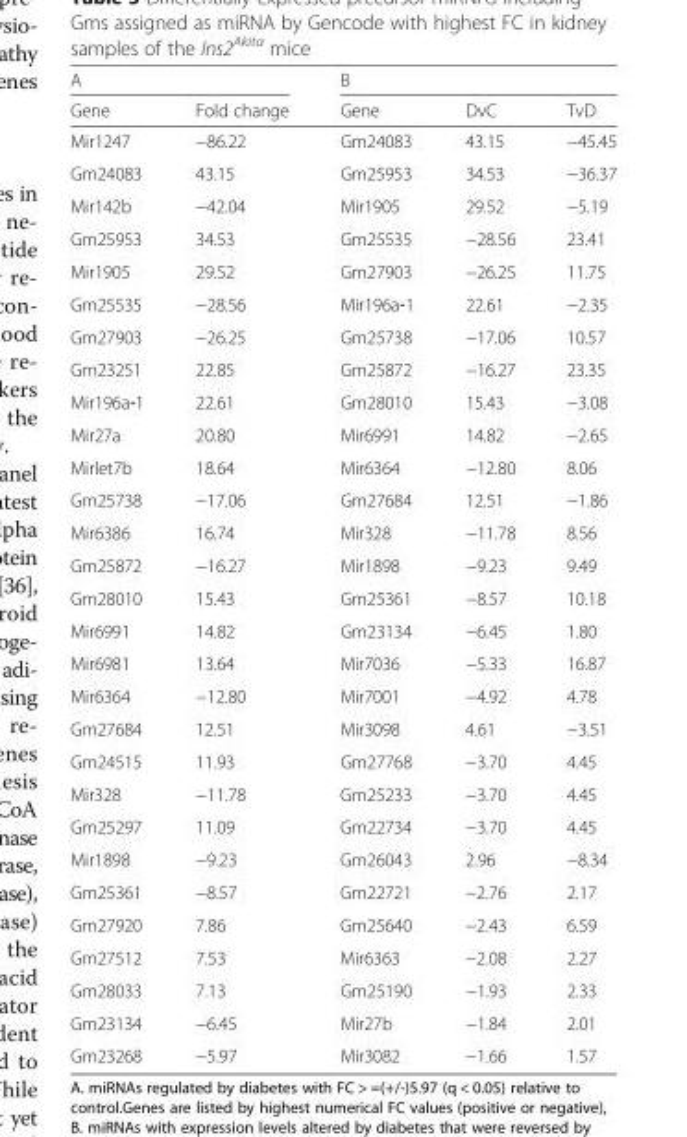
<table><thead><tr><td colspan="2">A</td><td colspan="3">B</td></tr><tr><td>Gene</td><td>Fold change</td><td>Gene</td><td>DvC</td><td>TvD</td></tr></thead><tbody><tr><td>Mir1247</td><td>−86.22</td><td>Gm24083</td><td>43.15</td><td>−45.45</td></tr><tr><td>Gm24083</td><td>43.15</td><td>Gm25953</td><td>34.53</td><td>−36.37</td></tr><tr><td>Mir142b</td><td>−42.04</td><td>Mir1905</td><td>29.52</td><td>−5.19</td></tr><tr><td>Gm25953</td><td>34.53</td><td>Gm25535</td><td>−28.56</td><td>23.41</td></tr><tr><td>Mir1905</td><td>29.52</td><td>Gm27903</td><td>−26.25</td><td>11.75</td></tr><tr><td>Gm25535</td><td>−28.56</td><td>Mir196a‐1</td><td>22.61</td><td>−2.35</td></tr><tr><td>Gm27903</td><td>−26.25</td><td>Gm25738</td><td>−17.06</td><td>10.57</td></tr><tr><td>Gm23251</td><td>22.85</td><td>Gm25872</td><td>−16.27</td><td>23.35</td></tr><tr><td>Mir196a‐1</td><td>22.61</td><td>Gm28010</td><td>15.43</td><td>−3.08</td></tr><tr><td>Mir27a</td><td>20.80</td><td>Mir6991</td><td>14.82</td><td>−2.65</td></tr><tr><td>Mirlet7b</td><td>18.64</td><td>Mir6364</td><td>−12.80</td><td>8.06</td></tr><tr><td>Gm25738</td><td>−17.06</td><td>Gm27684</td><td>12.51</td><td>−1.86</td></tr><tr><td>Mir6386</td><td>16.74</td><td>Mir328</td><td>−11.78</td><td>8.56</td></tr><tr><td>Gm25872</td><td>−16.27</td><td>Mir1898</td><td>−9.23</td><td>9.49</td></tr><tr><td>Gm28010</td><td>15.43</td><td>Gm25361</td><td>−8.57</td><td>10.18</td></tr><tr><td>Mir6991</td><td>14.82</td><td>Gm23134</td><td>−6.45</td><td>1.80</td></tr><tr><td>Mir6981</td><td>13.64</td><td>Mir7036</td><td>−5.33</td><td>16.87</td></tr><tr><td>Mir6364</td><td>−12.80</td><td>Mir7001</td><td>−4.92</td><td>4.78</td></tr><tr><td>Gm27684</td><td>12.51</td><td>Mir3098</td><td>4.61</td><td>−3.51</td></tr><tr><td>Gm24515</td><td>11.93</td><td>Gm27768</td><td>−3.70</td><td>4.45</td></tr><tr><td>Mir328</td><td>−11.78</td><td>Gm25233</td><td>−3.70</td><td>4.45</td></tr><tr><td>Gm25297</td><td>11.09</td><td>Gm22734</td><td>−3.70</td><td>4.45</td></tr><tr><td>Mir1898</td><td>−9.23</td><td>Gm26043</td><td>2.96</td><td>−8.34</td></tr><tr><td>Gm25361</td><td>−8.57</td><td>Gm22721</td><td>−2.76</td><td>2.17</td></tr><tr><td>Gm27920</td><td>7.86</td><td>Gm25640</td><td>−2.43</td><td>6.59</td></tr><tr><td>Gm27512</td><td>7.53</td><td>Mir6363</td><td>−2.08</td><td>2.27</td></tr><tr><td>Gm28033</td><td>7.13</td><td>Gm25190</td><td>−1.93</td><td>2.33</td></tr><tr><td>Gm23134</td><td>−6.45</td><td>Mir27b</td><td>−1.84</td><td>2.01</td></tr><tr><td>Gm23268</td><td>−5.97</td><td>Mir3082</td><td>−1.66</td><td>1.57</td></tr></tbody></table>